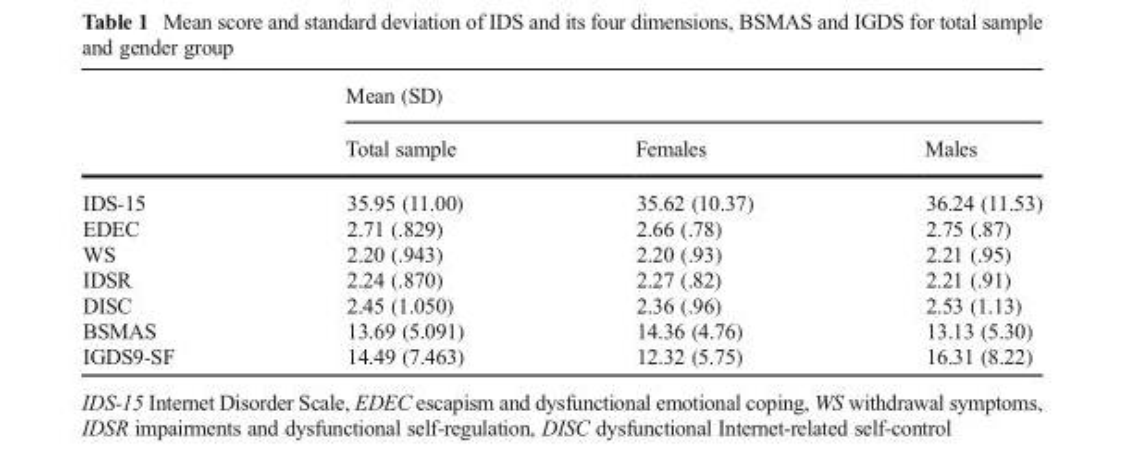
<table><thead><tr><td rowspan="2"></td><td colspan="3">Mean (SD)</td></tr><tr><td>Total sample</td><td>Females</td><td>Males</td></tr></thead><tbody><tr><td>IDS-15</td><td>35.95 (11.00)</td><td>35.62 (10.37)</td><td>36.24 (11.53)</td></tr><tr><td>EDEC</td><td>2.71 (.829)</td><td>2.66 (.78)</td><td>2.75 (.87)</td></tr><tr><td>WS</td><td>2.20 (.943)</td><td>2.20 (.93)</td><td>2.21 (.95)</td></tr><tr><td>IDSR</td><td>2.24 (.870)</td><td>2.27 (.82)</td><td>2.21 (.91)</td></tr><tr><td>DISC</td><td>2.45 (1.050)</td><td>2.36 (.96)</td><td>2.53 (1.13)</td></tr><tr><td>BSMAS</td><td>13.69 (5.091)</td><td>14.36 (4.76)</td><td>13.13 (5.30)</td></tr><tr><td>IGDS9-SF</td><td>14.49 (7.463)</td><td>12.32 (5.75)</td><td>16.31 (8.22)</td></tr></tbody></table>